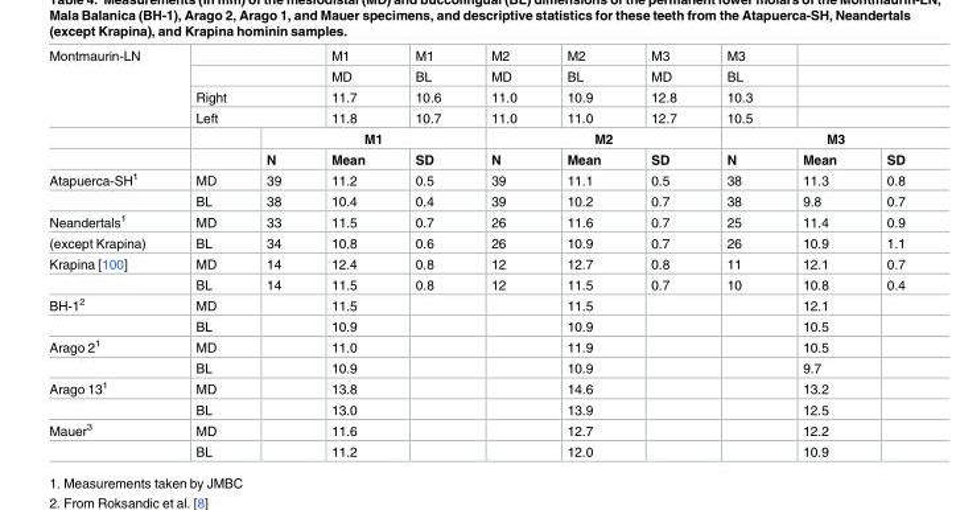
<table><tbody><tr><td rowspan="6">Montmaurin-LN</td><td colspan="2"></td><td>M1</td><td>M1</td><td>M2</td><td>M2</td><td>M3</td><td>M3</td><td colspan="2"></td></tr><tr><td colspan="2"></td><td>MD</td><td>BL</td><td>MD</td><td>BL</td><td>MD</td><td>BL</td><td colspan="2"></td></tr><tr><td colspan="2">Right</td><td>11.7</td><td>10.6</td><td>11.0</td><td>10.9</td><td>12.8</td><td>10.3</td><td colspan="2"></td></tr><tr><td colspan="2">Left</td><td>11.8</td><td>10.7</td><td>11.0</td><td>11.0</td><td>12.7</td><td>10.5</td><td colspan="2"></td></tr><tr><td></td><td colspan="3">M1</td><td colspan="3">M2</td><td colspan="3">M3</td></tr><tr><td></td><td>N</td><td>Mean</td><td>SD</td><td>N</td><td>Mean</td><td>SD</td><td>N</td><td>Mean</td><td>SD</td></tr><tr><td rowspan="2">Atapuerca-SH<sup>1</sup></td><td>MD</td><td>39</td><td>11.2</td><td>0.5</td><td>39</td><td>11.1</td><td>0.5</td><td>38</td><td>11.3</td><td>0.8</td></tr><tr><td>BL</td><td>38</td><td>10.4</td><td>0.4</td><td>39</td><td>10.2</td><td>0.7</td><td>38</td><td>9.8</td><td>0.7</td></tr><tr><td>Neandertals<sup>1</sup></td><td>MD</td><td>33</td><td>11.5</td><td>0.7</td><td>26</td><td>11.6</td><td>0.7</td><td>25</td><td>11.4</td><td>0.9</td></tr><tr><td>(except Krapina)</td><td>BL</td><td>34</td><td>10.8</td><td>0.6</td><td>26</td><td>10.9</td><td>0.7</td><td>26</td><td>10.9</td><td>1.1</td></tr><tr><td rowspan="2">Krapina [100]</td><td>MD</td><td>14</td><td>12.4</td><td>0.8</td><td>12</td><td>12.7</td><td>0.8</td><td>11</td><td>12.1</td><td>0.7</td></tr><tr><td>BL</td><td>14</td><td>11.5</td><td>0.8</td><td>12</td><td>11.5</td><td>0.7</td><td>10</td><td>10.8</td><td>0.4</td></tr><tr><td rowspan="2">BH-1<sup>2</sup></td><td>MD</td><td></td><td>11.5</td><td></td><td></td><td>11.5</td><td></td><td></td><td>12.1</td><td></td></tr><tr><td>BL</td><td></td><td>10.9</td><td></td><td></td><td>10.9</td><td></td><td></td><td>10.5</td><td></td></tr><tr><td rowspan="2">Arago 2<sup>1</sup></td><td>MD</td><td></td><td>11.0</td><td></td><td></td><td>11.9</td><td></td><td></td><td>10.5</td><td></td></tr><tr><td>BL</td><td></td><td>10.9</td><td></td><td></td><td>10.9</td><td></td><td></td><td>9.7</td><td></td></tr><tr><td rowspan="2">Arago 13<sup>1</sup></td><td>MD</td><td></td><td>13.8</td><td></td><td></td><td>14.6</td><td></td><td></td><td>13.2</td><td></td></tr><tr><td>BL</td><td></td><td>13.0</td><td></td><td></td><td>13.9</td><td></td><td></td><td>12.5</td><td></td></tr><tr><td rowspan="2">Mauer<sup>3</sup></td><td>MD</td><td></td><td>11.6</td><td></td><td></td><td>12.7</td><td></td><td></td><td>12.2</td><td></td></tr><tr><td>BL</td><td></td><td>11.2</td><td></td><td></td><td>12.0</td><td></td><td></td><td>10.9</td><td></td></tr></tbody></table>